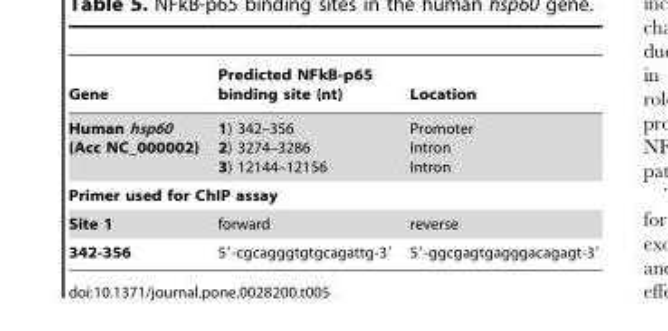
<table><thead><tr><td>Gene</td><td>Predicted NFkB-p65 binding site (nt)</td><td>Location</td></tr></thead><tbody><tr><td>Human hsp60 (Acc NC_000002)</td><td>1) 342–356 2) 3274–3286 3) 12144–12156</td><td>Promoter Intron Intron</td></tr><tr><td colspan="3">Primer used for ChIP assay</td></tr><tr><td>Site 1</td><td>forward</td><td>reverse</td></tr><tr><td>342-356</td><td>5′-cgcagggtgtgcagattg-3′</td><td>5′-ggcgagtgagggacagagt-3′</td></tr></tbody></table>